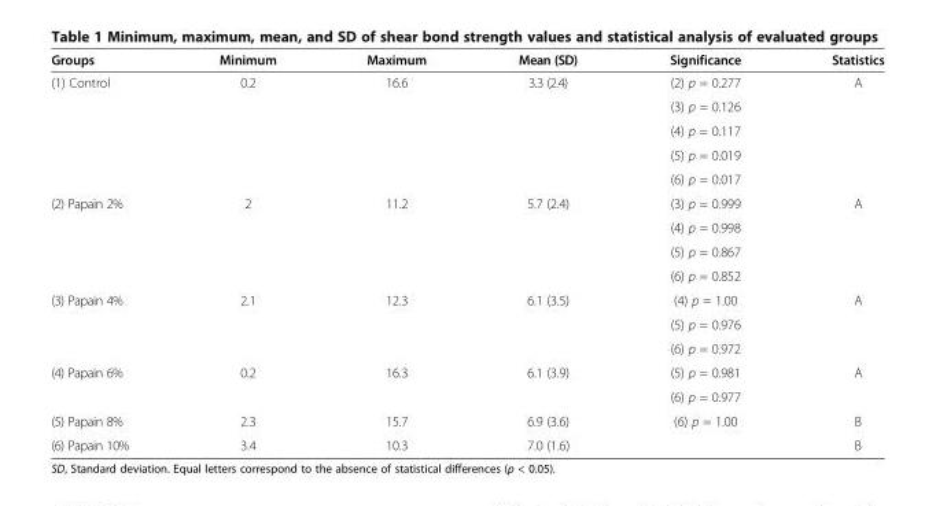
<table><thead><tr><td>Groups</td><td>Minimum</td><td>Maximum</td><td>Mean (SD)</td><td>Significance</td><td>Statistics</td></tr></thead><tbody><tr><td rowspan="5">(1) Control</td><td>0.2</td><td>16.6</td><td>3.3 (2.4)</td><td>(2) p = 0.277</td><td rowspan="5">A</td></tr><tr><td rowspan="4"></td><td rowspan="4"></td><td rowspan="4"></td><td>(3) p = 0.126</td></tr><tr><td>(4) p = 0.117</td></tr><tr><td>(5) p = 0.019</td></tr><tr><td>(6) p = 0.017</td></tr><tr><td rowspan="4">(2) Papain 2%</td><td rowspan="4">2</td><td rowspan="4">11.2</td><td rowspan="4">5.7 (2.4)</td><td>(3) p = 0.999</td><td rowspan="4">A</td></tr><tr><td>(4) p = 0.998</td></tr><tr><td>(5) p = 0.867</td></tr><tr><td>(6) p = 0.852</td></tr><tr><td rowspan="3">(3) Papain 4%</td><td rowspan="3">2.1</td><td rowspan="3">12.3</td><td rowspan="3">6.1 (3.5)</td><td>(4) p = 1.00</td><td rowspan="3">A</td></tr><tr><td>(5) p = 0.976</td></tr><tr><td>(6) p = 0.972</td></tr><tr><td rowspan="2">(4) Papain 6%</td><td rowspan="2">0.2</td><td rowspan="2">16.3</td><td rowspan="2">6.1 (3.9)</td><td>(5) p = 0.981</td><td rowspan="2">A</td></tr><tr><td>(6) p = 0.977</td></tr><tr><td>(5) Papain 8%</td><td>2.3</td><td>15.7</td><td>6.9 (3.6)</td><td>(6) p = 1.00</td><td>B</td></tr><tr><td>(6) Papain 10%</td><td>3.4</td><td>10.3</td><td>7.0 (1.6)</td><td></td><td>B</td></tr></tbody></table>